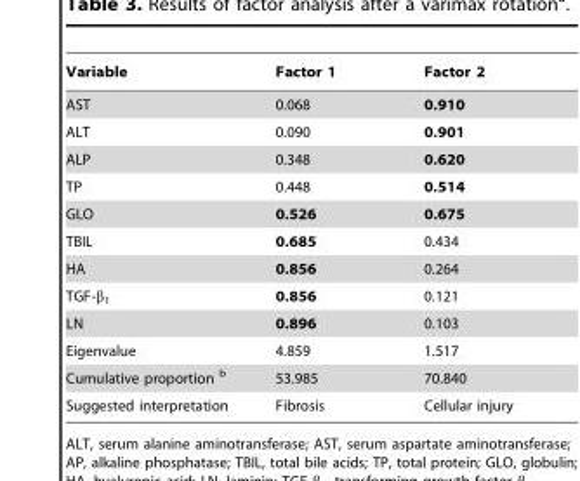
<table><thead><tr><td>Variable</td><td>Factor 1</td><td>Factor 2</td></tr></thead><tbody><tr><td>AST</td><td>0.068</td><td>0.910</td></tr><tr><td>ALT</td><td>0.090</td><td>0.901</td></tr><tr><td>ALP</td><td>0.348</td><td>0.620</td></tr><tr><td>TP</td><td>0.448</td><td>0.514</td></tr><tr><td>GLO</td><td>0.526</td><td>0.675</td></tr><tr><td>TBIL</td><td>0.685</td><td>0.434</td></tr><tr><td>HA</td><td>0.856</td><td>0.264</td></tr><tr><td>TGF-β<sub>1</sub></td><td>0.856</td><td>0.121</td></tr><tr><td>LN</td><td>0.896</td><td>0.103</td></tr><tr><td>Eigenvalue</td><td>4.859</td><td>1.517</td></tr><tr><td>Cumulative proportion b</td><td>53.985</td><td>70.840</td></tr><tr><td>Suggested interpretation</td><td>Fibrosis</td><td>Cellular injury</td></tr></tbody></table>